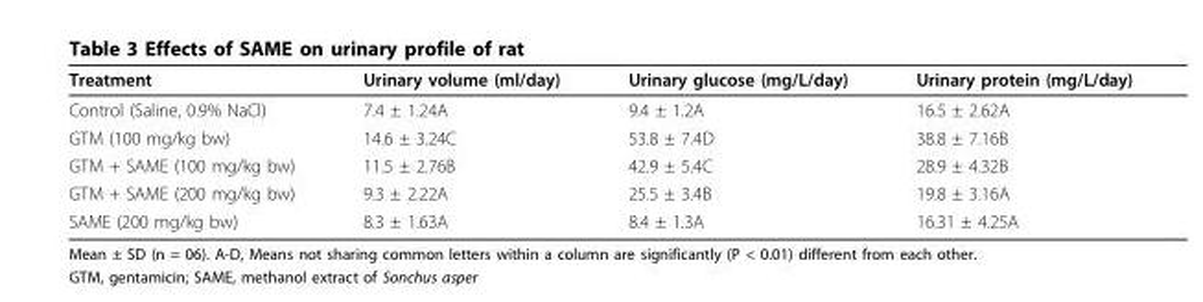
<table><thead><tr><td>Treatment</td><td>Urinary volume (ml/day)</td><td>Urinary glucose (mg/L/day)</td><td>Urinary protein (mg/L/day)</td></tr></thead><tbody><tr><td>Control (Saline, 0.9% NaCl)</td><td>7.4 ± 1.24A</td><td>9.4 ± 1.2A</td><td>16.5 ± 2.62A</td></tr><tr><td>GTM (100 mg/kg bw)</td><td>14.6 ± 3.24C</td><td>53.8 ± 7.4D</td><td>38.8 ± 7.16B</td></tr><tr><td>GTM + SAME (100 mg/kg bw)</td><td>11.5 ± 2.76B</td><td>42.9 ± 5.4C</td><td>28.9 ± 4.32B</td></tr><tr><td>GTM + SAME (200 mg/kg bw)</td><td>9.3 ± 2.22A</td><td>25.5 ± 3.4B</td><td>19.8 ± 3.16A</td></tr><tr><td>SAME (200 mg/kg bw)</td><td>8.3 ± 1.63A</td><td>8.4 ± 1.3A</td><td>16.31 ± 4.25A</td></tr></tbody></table>